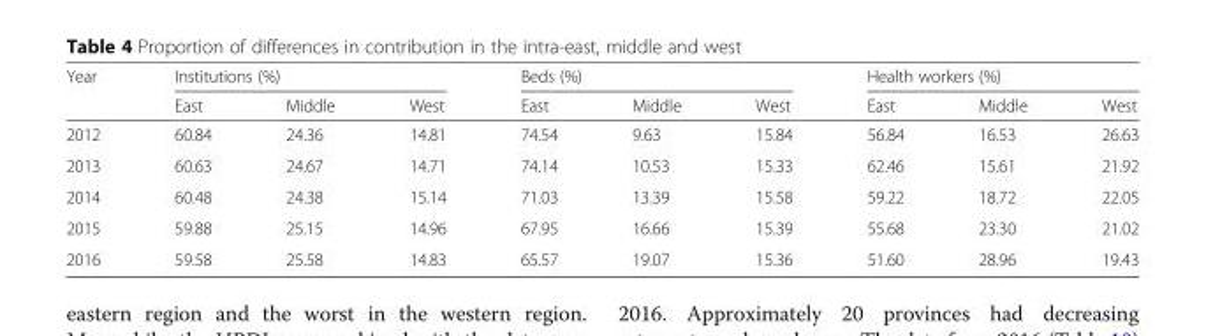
<table><thead><tr><td rowspan="2">Year</td><td colspan="3">Institutions (%)</td><td colspan="3">Beds (%)</td><td colspan="3">Health workers (%)</td></tr><tr><td>East</td><td>Middle</td><td>West</td><td>East</td><td>Middle</td><td>West</td><td>East</td><td>Middle</td><td>West</td></tr></thead><tbody><tr><td>2012</td><td>60.84</td><td>24.36</td><td>14.81</td><td>74.54</td><td>9.63</td><td>15.84</td><td>56.84</td><td>16.53</td><td>26.63</td></tr><tr><td>2013</td><td>60.63</td><td>24.67</td><td>14.71</td><td>74.14</td><td>10.53</td><td>15.33</td><td>62.46</td><td>15.61</td><td>21.92</td></tr><tr><td>2014</td><td>60.48</td><td>24.38</td><td>15.14</td><td>71.03</td><td>13.39</td><td>15.58</td><td>59.22</td><td>18.72</td><td>22.05</td></tr><tr><td>2015</td><td>59.88</td><td>25.15</td><td>14.96</td><td>67.95</td><td>16.66</td><td>15.39</td><td>55.68</td><td>23.30</td><td>21.02</td></tr><tr><td>2016</td><td>59.58</td><td>25.58</td><td>14.83</td><td>65.57</td><td>19.07</td><td>15.36</td><td>51.60</td><td>28.96</td><td>19.43</td></tr></tbody></table>